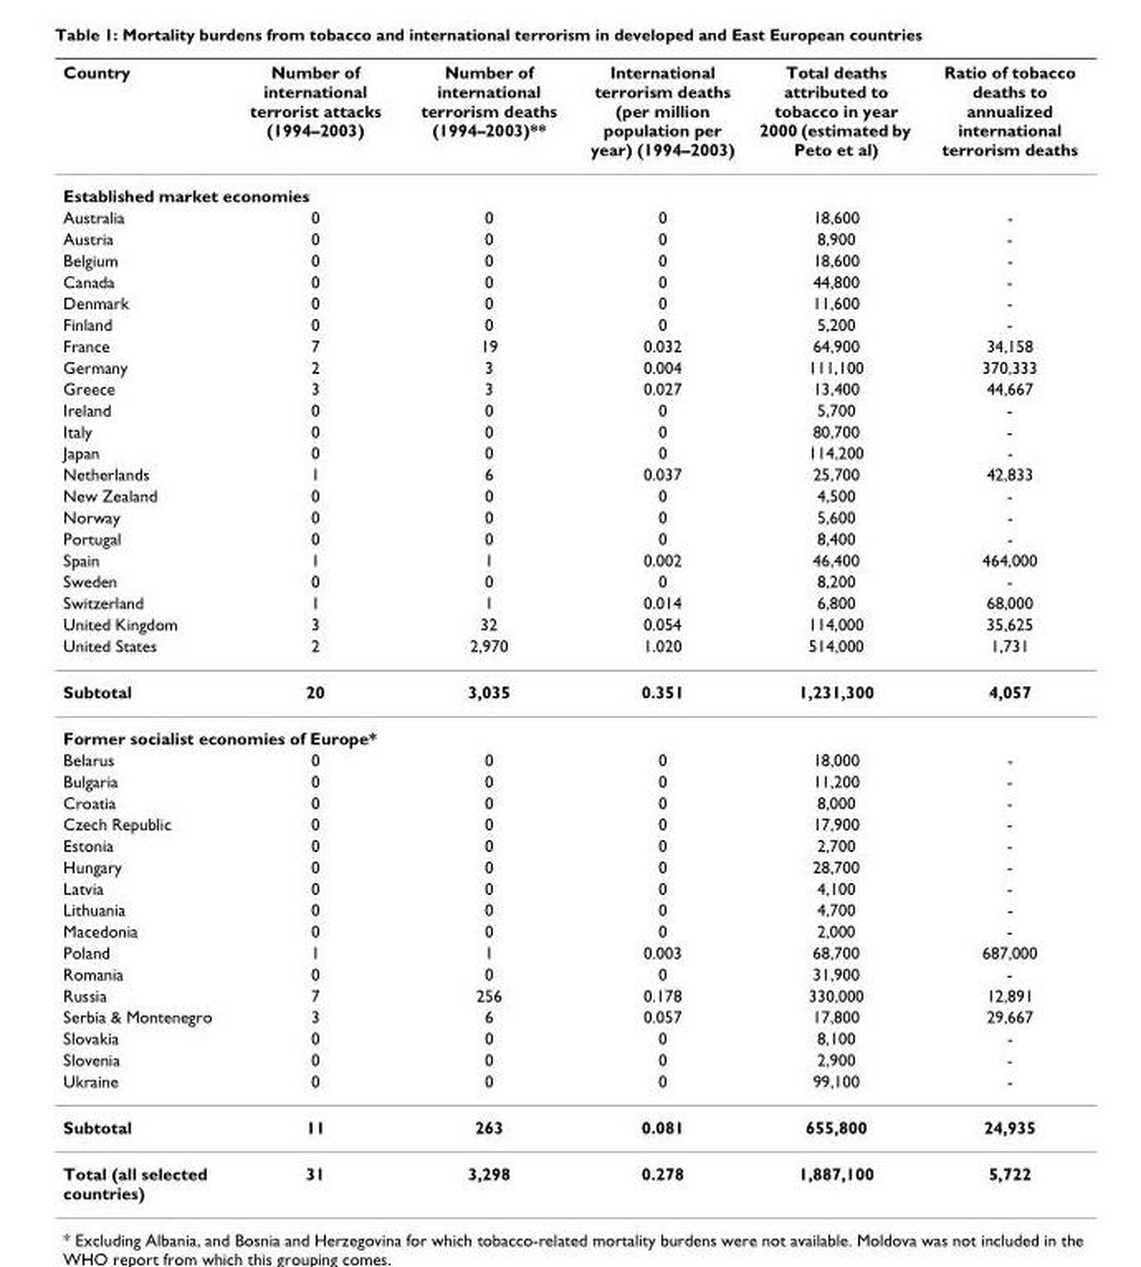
<table><thead><tr><td>Country</td><td>Number of international terrorist attacks (1994–2003)</td><td>Number of international terrorism deaths (1994–2003)**</td><td>International terrorism deaths (per million population per year) (1994–2003)</td><td>Total deaths attributed to tobacco in year 2000 (estimated by Peto et al)</td><td>Ratio of tobacco deaths to annualized international terrorism deaths</td></tr></thead><tbody><tr><td colspan="6">Established market economies</td></tr><tr><td>Australia</td><td>0</td><td>0</td><td>0</td><td>18,600</td><td>-</td></tr><tr><td>Austria</td><td>0</td><td>0</td><td>0</td><td>8,900</td><td>-</td></tr><tr><td>Belgium</td><td>0</td><td>0</td><td>0</td><td>18,600</td><td>-</td></tr><tr><td>Canada</td><td>0</td><td>0</td><td>0</td><td>44,800</td><td>-</td></tr><tr><td>Denmark</td><td>0</td><td>0</td><td>0</td><td>11,600</td><td>-</td></tr><tr><td>Finland</td><td>0</td><td>0</td><td>0</td><td>5,200</td><td>-</td></tr><tr><td>France</td><td>7</td><td>19</td><td>0.032</td><td>64,900</td><td>34,158</td></tr><tr><td>Germany</td><td>2</td><td>3</td><td>0.004</td><td>111,100</td><td>370,333</td></tr><tr><td>Greece</td><td>3</td><td>3</td><td>0.027</td><td>13,400</td><td>44,667</td></tr><tr><td>Ireland</td><td>0</td><td>0</td><td>0</td><td>5,700</td><td>-</td></tr><tr><td>Italy</td><td>0</td><td>0</td><td>0</td><td>80,700</td><td>-</td></tr><tr><td>Japan</td><td>0</td><td>0</td><td>0</td><td>114,200</td><td>-</td></tr><tr><td>Netherlands</td><td>1</td><td>6</td><td>0.037</td><td>25,700</td><td>42,833</td></tr><tr><td>New Zealand</td><td>0</td><td>0</td><td>0</td><td>4,500</td><td>-</td></tr><tr><td>Norway</td><td>0</td><td>0</td><td>0</td><td>5,600</td><td>-</td></tr><tr><td>Portugal</td><td>0</td><td>0</td><td>0</td><td>8,400</td><td>-</td></tr><tr><td>Spain</td><td>1</td><td>1</td><td>0.002</td><td>46,400</td><td>464,000</td></tr><tr><td>Sweden</td><td>0</td><td>0</td><td>0</td><td>8,200</td><td>-</td></tr><tr><td>Switzerland</td><td>1</td><td>1</td><td>0.014</td><td>6,800</td><td>68,000</td></tr><tr><td>United Kingdom</td><td>3</td><td>32</td><td>0.054</td><td>114,000</td><td>35,625</td></tr><tr><td>United States</td><td>2</td><td>2,970</td><td>1.020</td><td>514,000</td><td>1,731</td></tr><tr><td>Subtotal</td><td>20</td><td>3,035</td><td>0.351</td><td>1,231,300</td><td>4,057</td></tr><tr><td colspan="6">Former socialist economies of Europe*</td></tr><tr><td>Belarus</td><td>0</td><td>0</td><td>0</td><td>18,000</td><td>-</td></tr><tr><td>Bulgaria</td><td>0</td><td>0</td><td>0</td><td>11,200</td><td>-</td></tr><tr><td>Croatia</td><td>0</td><td>0</td><td>0</td><td>8,000</td><td>-</td></tr><tr><td>Czech Republic</td><td>0</td><td>0</td><td>0</td><td>17,900</td><td>-</td></tr><tr><td>Estonia</td><td>0</td><td>0</td><td>0</td><td>2,700</td><td>-</td></tr><tr><td>Hungary</td><td>0</td><td>0</td><td>0</td><td>28,700</td><td>-</td></tr><tr><td>Latvia</td><td>0</td><td>0</td><td>0</td><td>4,100</td><td>-</td></tr><tr><td>Lithuania</td><td>0</td><td>0</td><td>0</td><td>4,700</td><td>-</td></tr><tr><td>Macedonia</td><td>0</td><td>0</td><td>0</td><td>2,000</td><td>-</td></tr><tr><td>Poland</td><td>1</td><td>1</td><td>0.003</td><td>68,700</td><td>687,000</td></tr><tr><td>Romania</td><td>0</td><td>0</td><td>0</td><td>31,900</td><td>-</td></tr><tr><td>Russia</td><td>7</td><td>256</td><td>0.178</td><td>330,000</td><td>12,891</td></tr><tr><td>Serbia &amp; Montenegro</td><td>3</td><td>6</td><td>0.057</td><td>17,800</td><td>29,667</td></tr><tr><td>Slovakia</td><td>0</td><td>0</td><td>0</td><td>8,100</td><td>-</td></tr><tr><td>Slovenia</td><td>0</td><td>0</td><td>0</td><td>2,900</td><td>-</td></tr><tr><td>Ukraine</td><td>0</td><td>0</td><td>0</td><td>99,100</td><td>-</td></tr><tr><td>Subtotal</td><td>11</td><td>263</td><td>0.081</td><td>655,800</td><td>24,935</td></tr><tr><td>Total (all selected countries)</td><td>31</td><td>3,298</td><td>0.278</td><td>1,887,100</td><td>5,722</td></tr></tbody></table>